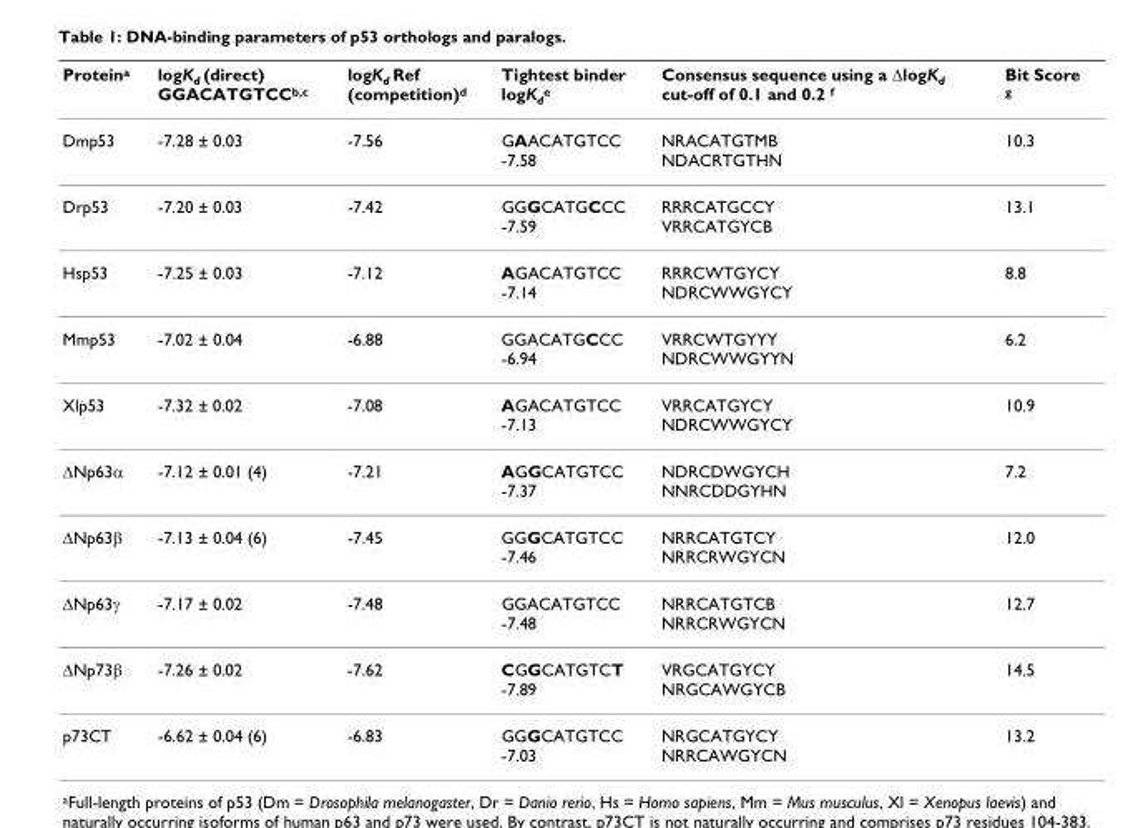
<table><thead><tr><td>Protein<sup>a</sup></td><td>logK<sub>d</sub> (direct) GGACATGTCC<sup>b,c</sup></td><td>logK<sub>d</sub> Ref (competition)<sup>d</sup></td><td>Tightest binder logK<sub>d</sub><sup>e</sup></td><td>Consensus sequence using a ΔlogK<sub>d</sub> cut-off of 0.1 and 0.2 <sup>f</sup></td><td>Bit Score <sup>g</sup></td></tr></thead><tbody><tr><td>Dmp53</td><td>-7.28 ± 0.03</td><td>-7.56</td><td>GAACATGTCC -7.58</td><td>NRACATGTMB NDACRTGTHN</td><td>10.3</td></tr><tr><td>Drp53</td><td>-7.20 ± 0.03</td><td>-7.42</td><td>GGGCATGCCC -7.59</td><td>RRRCATGCCY VRRCATGYCB</td><td>13.1</td></tr><tr><td>Hsp53</td><td>-7.25 ± 0.03</td><td>-7.12</td><td>AGACATGTCC -7.14</td><td>RRRCWTGYCY NDRCWWGYCY</td><td>8.8</td></tr><tr><td>Mmp53</td><td>-7.02 ± 0.04</td><td>-6.88</td><td>GGACATGCCC -6.94</td><td>VRRCWTGYYY NDRCWWGYYN</td><td>6.2</td></tr><tr><td>Xlp53</td><td>-7.32 ± 0.02</td><td>-7.08</td><td>AGACATGTCC -7.13</td><td>VRRCATGYCY NDRCWWGYCY</td><td>10.9</td></tr><tr><td>ΔNp63α</td><td>-7.12 ± 0.01 (4)</td><td>-7.21</td><td>AGGCATGTCC -7.37</td><td>NDRCDWGYCH NNRCDDGYHN</td><td>7.2</td></tr><tr><td>ΔNp63β</td><td>-7.13 ± 0.04 (6)</td><td>-7.45</td><td>GGGCATGTCC -7.46</td><td>NRRCATGTCY NRRCRWGYCN</td><td>12.0</td></tr><tr><td>ΔNp63γ</td><td>-7.17 ± 0.02</td><td>-7.48</td><td>GGACATGTCC -7.48</td><td>NRRCATGTCB NRRCRWGYCN</td><td>12.7</td></tr><tr><td>ΔNp73β</td><td>-7.26 ± 0.02</td><td>-7.62</td><td>CGGCATGTCT -7.89</td><td>VRGCATGYCY NRGCAWGYCB</td><td>14.5</td></tr><tr><td>p73CT</td><td>-6.62 ± 0.04 (6)</td><td>-6.83</td><td>GGGCATGTCC -7.03</td><td>NRGCATGYCY NRRCAWGYCN</td><td>13.2</td></tr></tbody></table>